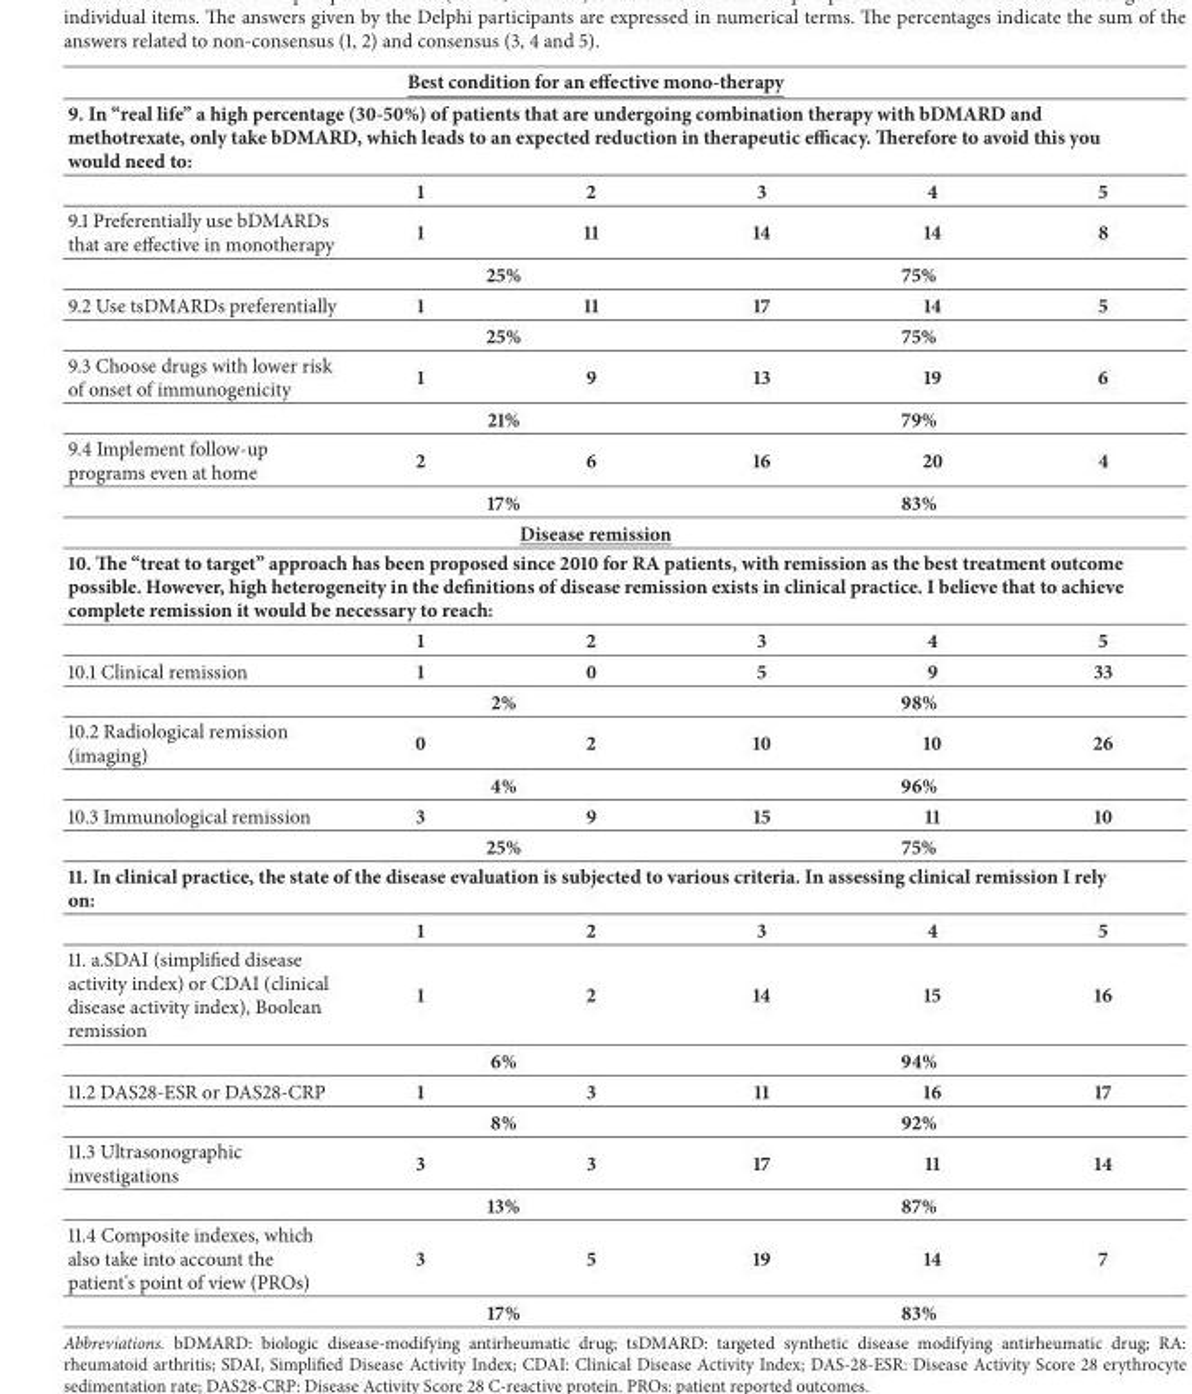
<table><thead><tr><td rowspan="2" colspan="6">Best condition for an effective mono-therapy 9. In “real life” a high percentage (30-50%) of patients that are undergoing combination therapy with bDMARD and methotrexate, only take bDMARD, which leads to an expected reduction in therapeutic efficacy. Terefore to avoid this you would need to:</td></tr><tr></tr><tr><td></td><td>1</td><td>2</td><td>3</td><td>4</td><td>5</td></tr></thead><tbody><tr><td rowspan="2">9.1 Preferentially use bDMARDs that are effective in monotherapy</td><td>1</td><td>11</td><td>14</td><td>14</td><td>8</td></tr><tr><td colspan="2">25%</td><td colspan="3">75%</td></tr><tr><td rowspan="2">9.2 Use tsDMARDs preferentially</td><td>1</td><td>11</td><td>17</td><td>14</td><td>5</td></tr><tr><td colspan="2">25%</td><td colspan="3">75%</td></tr><tr><td rowspan="2">9.3 Choose drugs with lower risk of onset of immunogenicity</td><td>1</td><td>9</td><td>13</td><td>19</td><td>6</td></tr><tr><td colspan="2">21%</td><td colspan="3">79%</td></tr><tr><td rowspan="2">9.4 Implement follow-up programs even at home</td><td>2</td><td>6</td><td>16</td><td>20</td><td>4</td></tr><tr><td colspan="2">17%</td><td colspan="3">83%</td></tr><tr><td colspan="6">Disease remission</td></tr><tr><td colspan="6">10. Te “treat to target” approach has been proposed since 2010 for RA patients, with remission as the best treatment outcome possible. However, high heterogeneity in the definitions of disease remission exists in clinical practice. I believe that to achieve complete remission it would be necessary to reach:</td></tr><tr><td></td><td>1</td><td>2</td><td>3</td><td>4</td><td>5</td></tr><tr><td rowspan="2">10.1 Clinical remission</td><td>1</td><td>0</td><td>5</td><td>9</td><td>33</td></tr><tr><td colspan="2">2%</td><td colspan="3">98%</td></tr><tr><td rowspan="2">10.2 Radiological remission (imaging)</td><td>0</td><td>2</td><td>10</td><td>10</td><td>26</td></tr><tr><td colspan="2">4%</td><td colspan="3">96%</td></tr><tr><td rowspan="2">10.3 Immunological remission</td><td>3</td><td>9</td><td>15</td><td>11</td><td>10</td></tr><tr><td colspan="2">25%</td><td colspan="3">75%</td></tr><tr><td colspan="6">11. In clinical practice, the state of the disease evaluation is subjected to various criteria. In assessing clinical remission I rely on:</td></tr><tr><td></td><td>1</td><td>2</td><td>3</td><td>4</td><td>5</td></tr><tr><td rowspan="2">11. a.SDAI (simplified disease activity index) or CDAI (clinical disease activity index), Boolean remission</td><td>1</td><td>2</td><td>14</td><td>15</td><td>16</td></tr><tr><td colspan="2">6%</td><td colspan="3">94%</td></tr><tr><td rowspan="2">11.2 DAS28-ESR or DAS28-CRP</td><td>1</td><td>3</td><td>11</td><td>16</td><td>17</td></tr><tr><td colspan="2">8%</td><td colspan="3">92%</td></tr><tr><td rowspan="2">11.3 Ultrasonographic investigations</td><td>3</td><td>3</td><td>17</td><td>11</td><td>14</td></tr><tr><td colspan="2">13%</td><td colspan="3">87%</td></tr><tr><td rowspan="2">11.4 Composite indexes, which also take into account the patient&#x27;s point of view (PROs)</td><td>3</td><td>5</td><td>19</td><td>14</td><td>7</td></tr><tr><td colspan="2">17%</td><td colspan="3">83%</td></tr></tbody></table>